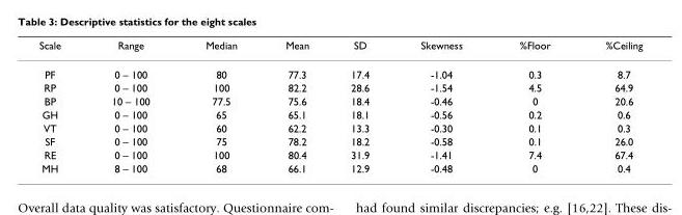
<table><thead><tr><td>Scale</td><td>Range</td><td>Median</td><td>Mean</td><td>SD</td><td>Skewness</td><td>%Floor</td><td>%Ceiling</td></tr></thead><tbody><tr><td>PF</td><td>0 – 100</td><td>80</td><td>77.3</td><td>17.4</td><td>-1.04</td><td>0.3</td><td>8.7</td></tr><tr><td>RP</td><td>0 – 100</td><td>100</td><td>82.2</td><td>28.6</td><td>-1.54</td><td>4.5</td><td>64.9</td></tr><tr><td>BP</td><td>10 – 100</td><td>77.5</td><td>75.6</td><td>18.4</td><td>-0.46</td><td>0</td><td>20.6</td></tr><tr><td>GH</td><td>0 – 100</td><td>65</td><td>65.1</td><td>18.1</td><td>-0.56</td><td>0.2</td><td>0.6</td></tr><tr><td>VT</td><td>0 – 100</td><td>60</td><td>62.2</td><td>13.3</td><td>-0.30</td><td>0.1</td><td>0.3</td></tr><tr><td>SF</td><td>0 – 100</td><td>75</td><td>78.2</td><td>18.2</td><td>-0.58</td><td>0.1</td><td>26.0</td></tr><tr><td>RE</td><td>0 – 100</td><td>100</td><td>80.4</td><td>31.9</td><td>-1.41</td><td>7.4</td><td>67.4</td></tr><tr><td>MH</td><td>8 – 100</td><td>68</td><td>66.1</td><td>12.9</td><td>-0.48</td><td>0</td><td>0.4</td></tr></tbody></table>